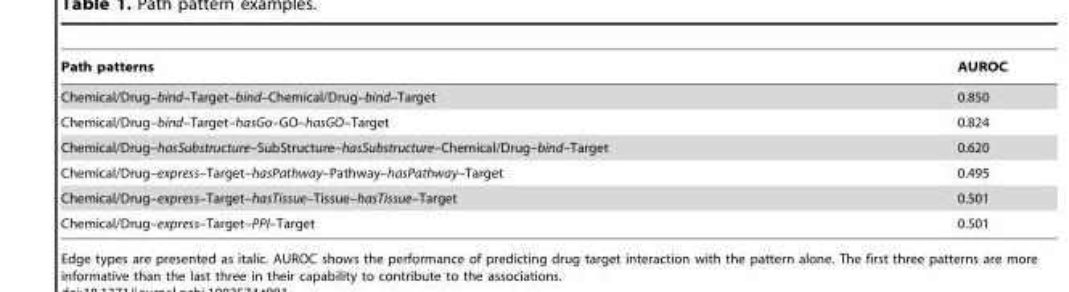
<table><thead><tr><td>Path patterns</td><td>AUROC</td></tr></thead><tbody><tr><td>Chemical/Drug–bind–Target–bind–Chemical/Drug–bind–Target</td><td>0.850</td></tr><tr><td>Chemical/Drug–bind–Target–hasGo–GO–hasGO–Target</td><td>0.824</td></tr><tr><td>Chemical/Drug–hasSubstructure–SubStructure–hasSubstructure–Chemical/Drug–bind–Target</td><td>0.620</td></tr><tr><td>Chemical/Drug–express–Target–hasPathway–Pathway–hasPathway–Target</td><td>0.495</td></tr><tr><td>Chemical/Drug–express–Target–hasTissue–Tissue–hasTissue–Target</td><td>0.501</td></tr><tr><td>Chemical/Drug–express–Target–PPI–Target</td><td>0.501</td></tr></tbody></table>